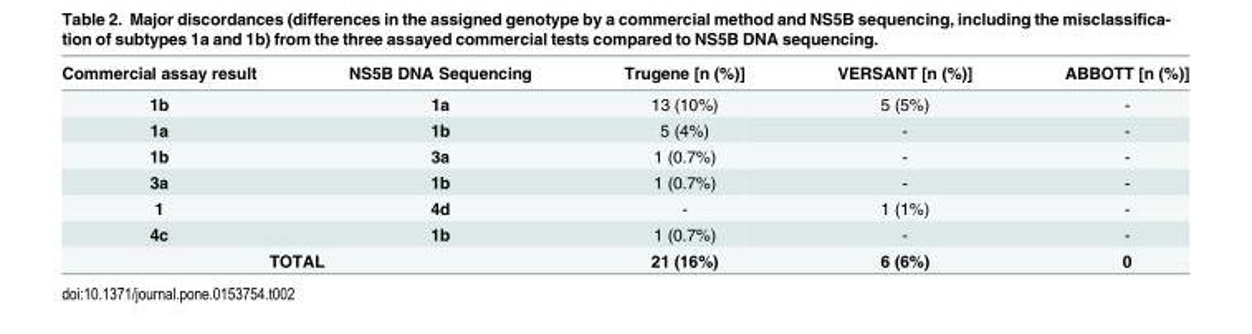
<table><thead><tr><td>Commercial assay result</td><td>NS5B DNA Sequencing</td><td>Trugene [n (%)]</td><td>VERSANT [n (%)]</td><td>ABBOTT [n (%)]</td></tr></thead><tbody><tr><td>1b</td><td>1a</td><td>13 (10%)</td><td>5 (5%)</td><td>-</td></tr><tr><td>1a</td><td>1b</td><td>5 (4%)</td><td>-</td><td>-</td></tr><tr><td>1b</td><td>3a</td><td>1 (0.7%)</td><td>-</td><td>-</td></tr><tr><td>3a</td><td>1b</td><td>1 (0.7%)</td><td>-</td><td>-</td></tr><tr><td>1</td><td>4d</td><td>-</td><td>1 (1%)</td><td>-</td></tr><tr><td>4c</td><td>1b</td><td>1 (0.7%)</td><td>-</td><td>-</td></tr><tr><td colspan="2">TOTAL</td><td>21 (16%)</td><td>6 (6%)</td><td>0</td></tr></tbody></table>